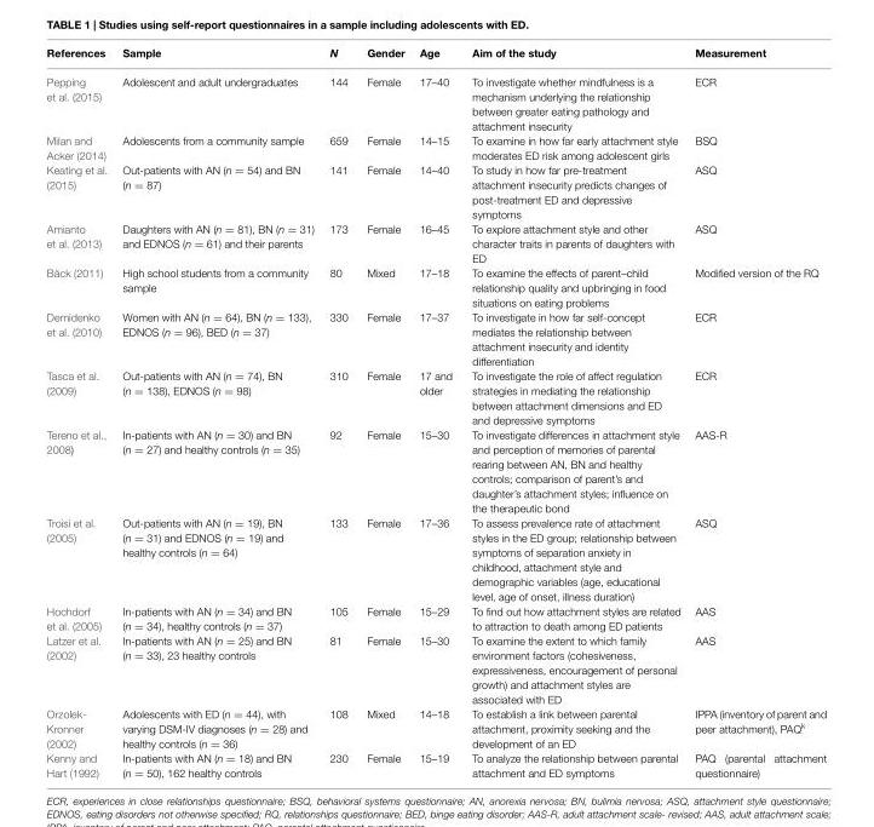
<table><thead><tr><td>References</td><td>Sample</td><td>N</td><td>Gender</td><td>Age</td><td>Aim of the study</td><td>Measurement</td></tr></thead><tbody><tr><td>Pepping et al. (2015)</td><td>Adolescent and adult undergraduates</td><td>144</td><td>Female</td><td>17–40</td><td>To investigate whether mindfulness is a mechanism underlying the relationship between greater eating pathology and attachment insecurity</td><td>ECR</td></tr><tr><td>Milan and Acker (2014)</td><td>Adolescents from a community sample</td><td>659</td><td>Female</td><td>14–15</td><td>To examine in how far early attachment style moderates ED risk among adolescent girls</td><td>BSQ</td></tr><tr><td>Keating et al. (2015)</td><td>Out-patients with AN (n = 54) and BN (n = 87)</td><td>141</td><td>Female</td><td>14–40</td><td>To study in how far pre-treatment attachment insecurity predicts changes of post-treatment ED and depressive symptoms</td><td>ASQ</td></tr><tr><td>Amianto et al. (2013)</td><td>Daughters with AN (n = 81), BN (n = 31) and EDNOS (n = 61) and their parents</td><td>173</td><td>Female</td><td>16–45</td><td>To explore attachment style and other character traits in parents of daughters with ED</td><td>ASQ</td></tr><tr><td>Bäck (2011)</td><td>High school students from a community sample</td><td>80</td><td>Mixed</td><td>17–18</td><td>To examine the effects of parent–child relationship quality and upbringing in food situations on eating problems</td><td>Modified version of the RQ</td></tr><tr><td>Demidenko et al. (2010)</td><td>Women with AN (n = 64), BN (n = 133), EDNOS (n = 96), BED (n = 37)</td><td>330</td><td>Female</td><td>17–37</td><td>To investigate in how far self-concept mediates the relationship between attachment insecurity and identity differentiation</td><td>ECR</td></tr><tr><td>Tasca et al. (2009)</td><td>Out-patients with AN (n = 74), BN (n = 138), EDNOS (n = 98)</td><td>310</td><td>Female</td><td>17 and older</td><td>To investigate the role of affect regulation strategies in mediating the relationship between attachment dimensions and ED and depressive symptoms</td><td>ECR</td></tr><tr><td>Tereno et al., 2008)</td><td>In-patients with AN (n = 30) and BN (n = 27) and healthy controls (n = 35)</td><td>92</td><td>Female</td><td>15–30</td><td>To investigate differences in attachment style and perception of memories of parental rearing between AN, BN and healthy controls; comparison of parent’s and daughter’s attachment styles; influence on the therapeutic bond</td><td>AAS-R</td></tr><tr><td>Troisi et al. (2005)</td><td>Out-patients with AN (n = 19), BN (n = 31) and EDNOS (n = 19) and healthy controls (n = 64)</td><td>133</td><td>Female</td><td>17–36</td><td>To assess prevalence rate of attachment styles in the ED group; relationship between symptoms of separation anxiety in childhood, attachment style and demographic variables (age, educational level, age of onset, illness duration)</td><td>ASQ</td></tr><tr><td>Hochdorf et al. (2005)</td><td>In-patients with AN (n = 34) and BN (n = 34), healthy controls (n = 37)</td><td>105</td><td>Female</td><td>15–29</td><td>To find out how attachment styles are related to attraction to death among ED patients</td><td>AAS</td></tr><tr><td>Latzer et al. (2002)</td><td>In-patients with AN (n = 25) and BN (n = 33), 23 healthy controls</td><td>81</td><td>Female</td><td>15–30</td><td>To examine the extent to which family environment factors (cohesiveness, expressiveness, encouragement of personal growth) and attachment styles are associated with ED</td><td>AAS</td></tr><tr><td>Orzolek- Kronner (2002)</td><td>Adolescents with ED (n = 44), with varying DSM-IV diagnoses (n = 28) and healthy controls (n = 36)</td><td>108</td><td>Mixed</td><td>14–18</td><td>To establish a link between parental attachment, proximity seeking and the development of an ED</td><td>IPPA (inventory of parent and peer attachment), PAQ<sup>k</sup></td></tr><tr><td>Kenny and Hart (1992)</td><td>In-patients with AN (n = 18) and BN (n = 50), 162 healthy controls</td><td>230</td><td>Female</td><td>15–19</td><td>To analyze the relationship between parental attachment and ED symptoms</td><td>PAQ (parental attachment questionnaire)</td></tr></tbody></table>